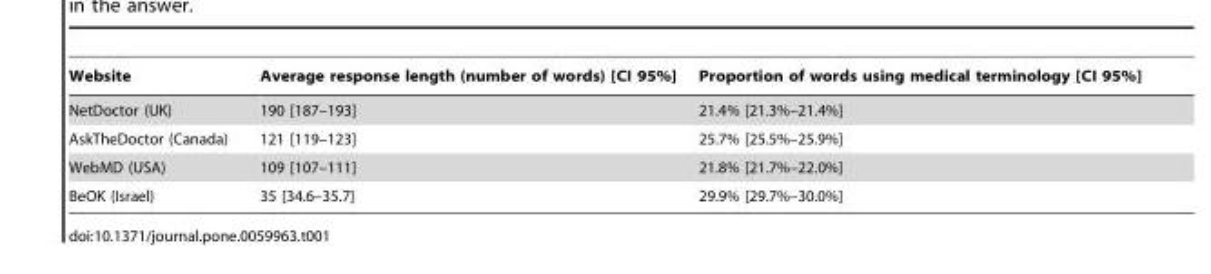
<table><thead><tr><td>Website</td><td>Average response length (number of words) [CI 95%]</td><td>Proportion of words using medical terminology [CI 95%]</td></tr></thead><tbody><tr><td>NetDoctor (UK)</td><td>190 [187–193]</td><td>21.4% [21.3%–21.4%]</td></tr><tr><td>AskTheDoctor (Canada)</td><td>121 [119–123]</td><td>25.7% [25.5%–25.9%]</td></tr><tr><td>WebMD (USA)</td><td>109 [107–111]</td><td>21.8% [21.7%–22.0%]</td></tr><tr><td>BeOK (Israel)</td><td>35 [34.6–35.7]</td><td>29.9% [29.7%–30.0%]</td></tr></tbody></table>